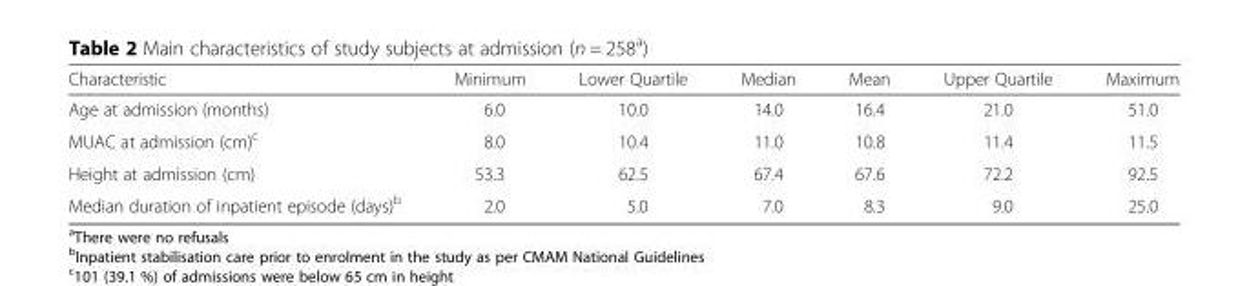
<table><thead><tr><td>Characteristic</td><td>Minimum</td><td>Lower Quartile</td><td>Median</td><td>Mean</td><td>Upper Quartile</td><td>Maximum</td></tr></thead><tbody><tr><td>Age at admission (months)</td><td>6.0</td><td>10.0</td><td>14.0</td><td>16.4</td><td>21.0</td><td>51.0</td></tr><tr><td>MUAC at admission (cm)<sup>c</sup></td><td>8.0</td><td>10.4</td><td>11.0</td><td>10.8</td><td>11.4</td><td>11.5</td></tr><tr><td>Height at admission (cm)</td><td>53.3</td><td>62.5</td><td>67.4</td><td>67.6</td><td>72.2</td><td>92.5</td></tr><tr><td>Median duration of inpatient episode (days)<sup>b</sup></td><td>2.0</td><td>5.0</td><td>7.0</td><td>8.3</td><td>9.0</td><td>25.0</td></tr></tbody></table>